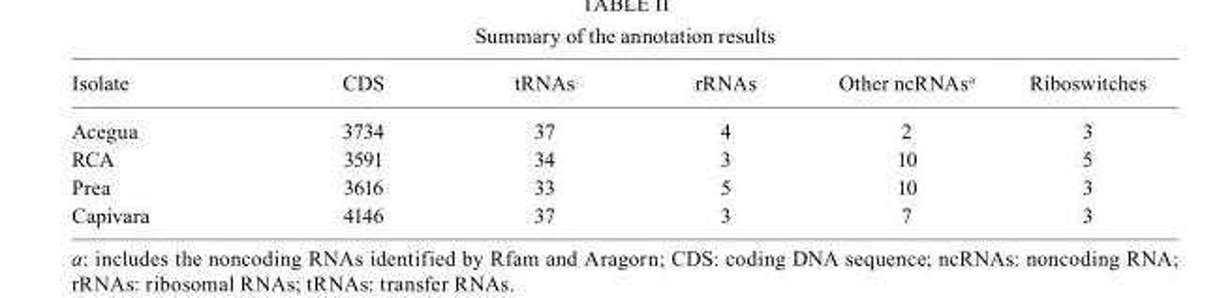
<table><thead><tr><td>Isolate</td><td>CDS</td><td>tRNAs</td><td>rRNAs</td><td>Other ncRNAs<sup>a</sup></td><td>Riboswitches</td></tr></thead><tbody><tr><td>Acegua</td><td>3734</td><td>37</td><td>4</td><td>2</td><td>3</td></tr><tr><td>RCA</td><td>3591</td><td>34</td><td>3</td><td>10</td><td>5</td></tr><tr><td>Prea</td><td>3616</td><td>33</td><td>5</td><td>10</td><td>3</td></tr><tr><td>Capivara</td><td>4146</td><td>37</td><td>3</td><td>7</td><td>3</td></tr></tbody></table>